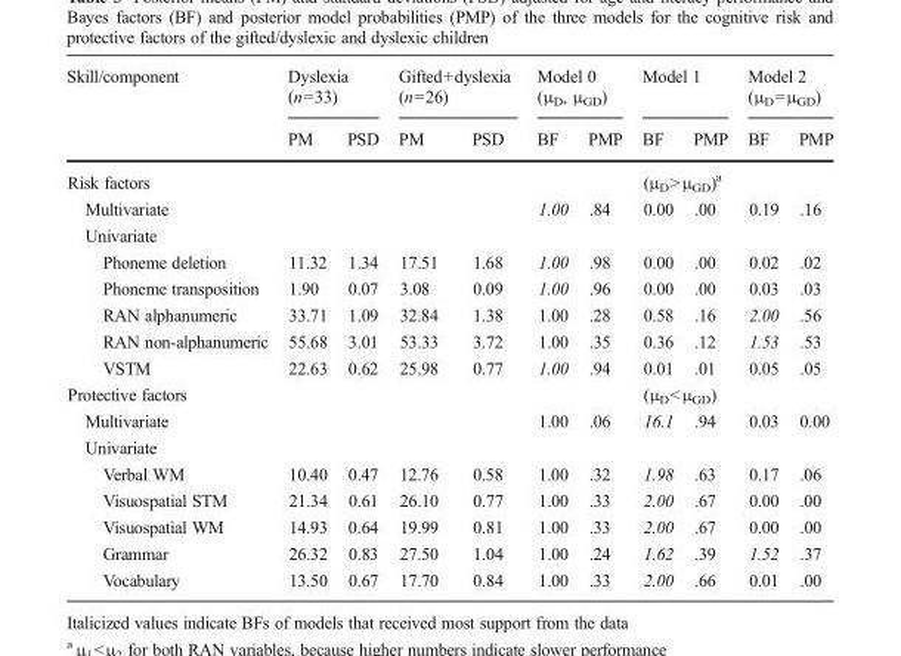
<table><thead><tr><td rowspan="2">Skill/component</td><td colspan="2">Dyslexia (n=33)</td><td colspan="2">Gifted+dyslexia (n=26)</td><td colspan="2">Model 0 (μ<sub>D</sub>, μ<sub>GD</sub>)</td><td colspan="2">Model 1</td><td colspan="2">Model 2 (μ<sub>D</sub>=μ<sub>GD</sub>)</td></tr><tr><td>PM</td><td>PSD</td><td>PM</td><td>PSD</td><td>BF</td><td>PMP</td><td>BF</td><td>PMP</td><td>BF</td><td>PMP</td></tr></thead><tbody><tr><td>Risk factors</td><td></td><td></td><td></td><td></td><td></td><td></td><td colspan="2">(μ<sub>D</sub>&gt;μ<sub>GD</sub>)<sup>a</sup></td><td></td><td></td></tr><tr><td>Multivariate</td><td></td><td></td><td></td><td></td><td>1.00</td><td>.84</td><td>0.00</td><td>.00</td><td>0.19</td><td>.16</td></tr><tr><td colspan="11">Univariate</td></tr><tr><td>Phoneme deletion</td><td>11.32</td><td>1.34</td><td>17.51</td><td>1.68</td><td>1.00</td><td>.98</td><td>0.00</td><td>.00</td><td>0.02</td><td>.02</td></tr><tr><td>Phoneme transposition</td><td>1.90</td><td>0.07</td><td>3.08</td><td>0.09</td><td>1.00</td><td>.96</td><td>0.00</td><td>.00</td><td>0.03</td><td>.03</td></tr><tr><td>RAN alphanumeric</td><td>33.71</td><td>1.09</td><td>32.84</td><td>1.38</td><td>1.00</td><td>.28</td><td>0.58</td><td>.16</td><td>2.00</td><td>.56</td></tr><tr><td>RAN non-alphanumeric</td><td>55.68</td><td>3.01</td><td>53.33</td><td>3.72</td><td>1.00</td><td>.35</td><td>0.36</td><td>.12</td><td>1.53</td><td>.53</td></tr><tr><td>VSTM</td><td>22.63</td><td>0.62</td><td>25.98</td><td>0.77</td><td>1.00</td><td>.94</td><td>0.01</td><td>.01</td><td>0.05</td><td>.05</td></tr><tr><td>Protective factors</td><td></td><td></td><td></td><td></td><td></td><td></td><td colspan="2">(μ<sub>D</sub>&lt;μ<sub>GD</sub>)</td><td></td><td></td></tr><tr><td>Multivariate</td><td></td><td></td><td></td><td></td><td>1.00</td><td>.06</td><td>16.1</td><td>.94</td><td>0.03</td><td>0.00</td></tr><tr><td colspan="11">Univariate</td></tr><tr><td>Verbal WM</td><td>10.40</td><td>0.47</td><td>12.76</td><td>0.58</td><td>1.00</td><td>.32</td><td>1.98</td><td>.63</td><td>0.17</td><td>.06</td></tr><tr><td>Visuospatial STM</td><td>21.34</td><td>0.61</td><td>26.10</td><td>0.77</td><td>1.00</td><td>.33</td><td>2.00</td><td>.67</td><td>0.00</td><td>.00</td></tr><tr><td>Visuospatial WM</td><td>14.93</td><td>0.64</td><td>19.99</td><td>0.81</td><td>1.00</td><td>.33</td><td>2.00</td><td>.67</td><td>0.00</td><td>.00</td></tr><tr><td>Grammar</td><td>26.32</td><td>0.83</td><td>27.50</td><td>1.04</td><td>1.00</td><td>.24</td><td>1.62</td><td>.39</td><td>1.52</td><td>.37</td></tr><tr><td>Vocabulary</td><td>13.50</td><td>0.67</td><td>17.70</td><td>0.84</td><td>1.00</td><td>.33</td><td>2.00</td><td>.66</td><td>0.01</td><td>.00</td></tr></tbody></table>